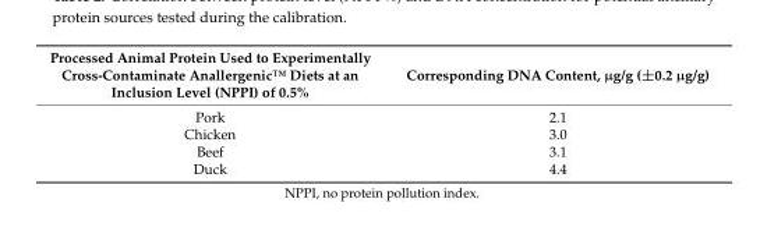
<table><thead><tr><td>Processed Animal Protein Used to Experimentally Cross-Contaminate Anallergenic™ Diets at an Inclusion Level (NPPI) of 0.5%</td><td>Corresponding DNA Content, µg/g (±0.2 µg/g)</td></tr></thead><tbody><tr><td>Pork</td><td>2.1</td></tr><tr><td>Chicken</td><td>3.0</td></tr><tr><td>Beef</td><td>3.1</td></tr><tr><td>Duck</td><td>4.4</td></tr></tbody></table>